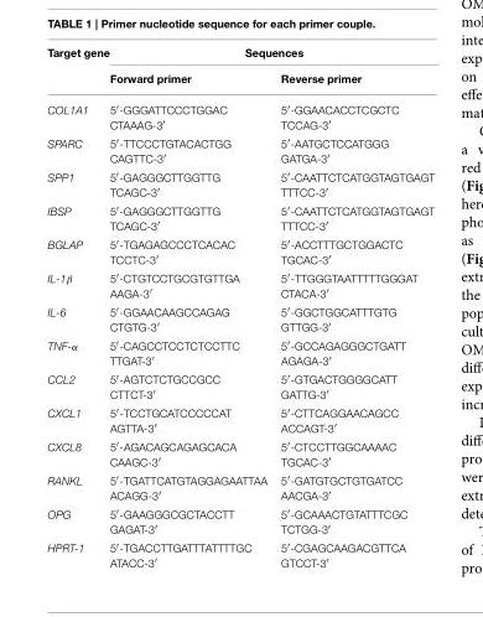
<table><thead><tr><td rowspan="2">Target gene</td><td colspan="2">Sequences</td></tr><tr><td>Forward primer</td><td>Reverse primer</td></tr></thead><tbody><tr><td>COL1A1</td><td>5′-GGGATTCCCTGGAC CTAAAG-3′</td><td>5′-GGAACACCTCGCTC TCCAG-3′</td></tr><tr><td>SPARC</td><td>5′-TTCCCTGTACACTGG CAGTTC-3′</td><td>5′-AATGCTCCATGGG GATGA-3′</td></tr><tr><td>SPP1</td><td>5′-GAGGGCTTGGTTG TCAGC-3′</td><td>5′-CAATTCTCATGGTAGTGAGT TTTCC-3′</td></tr><tr><td>IBSP</td><td>5′-GAGGGCTTGGTTG TCAGC-3′</td><td>5′-CAATTCTCATGGTAGTGAGT TTTCC-3′</td></tr><tr><td>BGLAP</td><td>5′-TGAGAGCCCTCACAC TCCTC-3′</td><td>5′-ACCTTTGCTGGACTC TGCAC-3′</td></tr><tr><td>IL-1β</td><td>5′-CTGTCCTGCGTGTTGA AAGA-3′</td><td>5′-TTGGGTAATTTTTGGGAT CTACA-3′</td></tr><tr><td>IL-6</td><td>5′-GGAACAAGCCAGAG CTGTG-3′</td><td>5′-GGCTGGCATTTGTG GTTGG-3′</td></tr><tr><td>TNF-α</td><td>5′-CAGCCTCCTCTCCTTC TTGAT-3′</td><td>5′-GCCAGAGGGCTGATT AGAGA-3′</td></tr><tr><td>CCL2</td><td>5′-AGTCTCTGCCGCC CTTCT-3′</td><td>5′-GTGACTGGGGCATT GATTG-3′</td></tr><tr><td>CXCL1</td><td>5′-TCCTGCATCCCCCAT AGTTA-3′</td><td>5′-CTTCAGGAACAGCC ACCAGT-3′</td></tr><tr><td>CXCL8</td><td>5′-AGACAGCAGAGCACA CAAGC-3′</td><td>5′-CTCCTTGGCAAAAC TGCAC-3′</td></tr><tr><td>RANKL</td><td>5′-TGATTCATGTAGGAGAATTAA ACAGG-3′</td><td>5′-GATGTGCTGTGATCC AACGA-3′</td></tr><tr><td>OPG</td><td>5′-GAAGGGCGCTACCTT GAGAT-3′</td><td>5′-GCAAACTGTATTTCGC TCTGG-3′</td></tr><tr><td>HPRT-1</td><td>5′-TGACCTTGATTTATTTTGC ATACC-3′</td><td>5′-CGAGCAAGACGTTCA GTCCT-3′</td></tr></tbody></table>